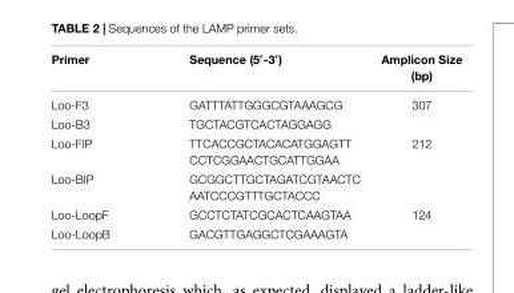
<table><thead><tr><td>Primer</td><td>Sequence (5′-3′)</td><td>Amplicon Size (bp)</td></tr></thead><tbody><tr><td>Loo-F3</td><td>GATTTATTGGGCGTAAAGCG</td><td>307</td></tr><tr><td>Loo-B3</td><td>TGCTACGTCACTAGGAGG</td><td></td></tr><tr><td>Loo-FIP</td><td>TTCACCGCTACACATGGAGTT CCTCGGAACTGCATTGGAA</td><td>212</td></tr><tr><td>Loo-BIP</td><td>GCGGCTTGCTAGATCGTAACTC AATCCCGTTTGCTACCC</td><td></td></tr><tr><td>Loo-LoopF</td><td>GCCTCTATCGCACTCAAGTAA</td><td>124</td></tr><tr><td>Loo-LoopB</td><td>GACGTTGAGGCTCGAAAGTA</td><td></td></tr></tbody></table>